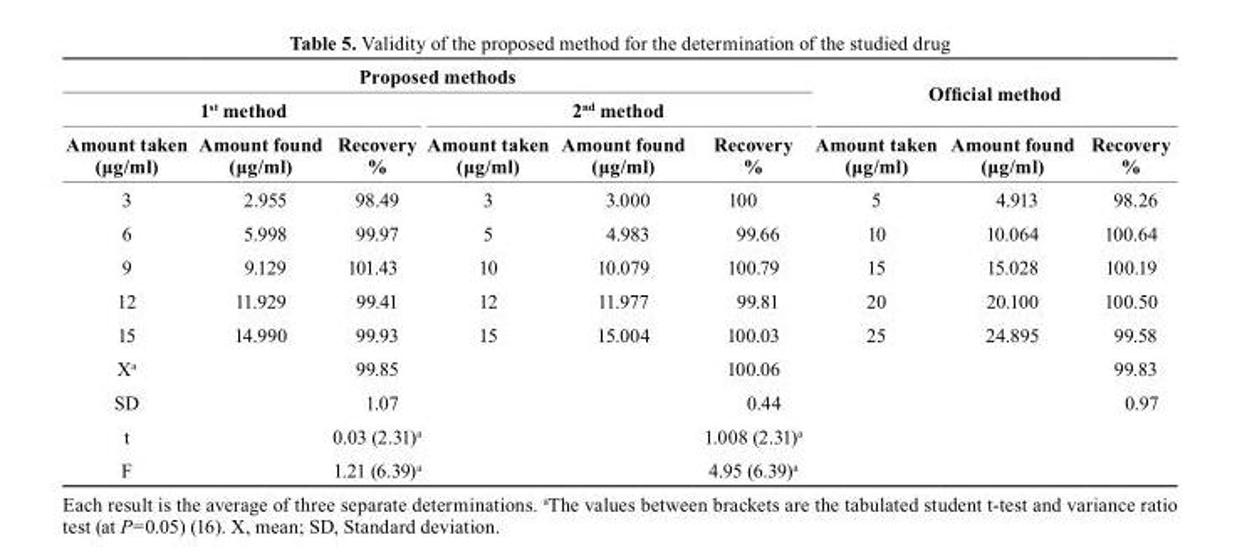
<table><thead><tr><td colspan="6">Proposed methods</td><td rowspan="2" colspan="3">Official method</td></tr><tr><td colspan="3">1st method</td><td colspan="3">2nd method</td></tr><tr><td>Amount taken (μg/ml)</td><td>Amount found (μg/ml)</td><td>recovery %</td><td>Amount taken (μg/ml)</td><td>Amount found (μg/ml)</td><td>recovery %</td><td>Amount taken (μg/ml)</td><td>Amount found (μg/ml)</td><td>recovery %</td></tr></thead><tbody><tr><td>3</td><td>2.955</td><td>98.49</td><td>3</td><td>3.000</td><td>100</td><td>5</td><td>4.913</td><td>98.26</td></tr><tr><td>6</td><td>5.998</td><td>99.97</td><td>5</td><td>4.983</td><td>99.66</td><td>10</td><td>10.064</td><td>100.64</td></tr><tr><td>9</td><td>9.129</td><td>101.43</td><td>10</td><td>10.079</td><td>100.79</td><td>15</td><td>15.028</td><td>100.19</td></tr><tr><td>12</td><td>11.929</td><td>99.41</td><td>12</td><td>11.977</td><td>99.81</td><td>20</td><td>20.100</td><td>100.50</td></tr><tr><td>15</td><td>14.990</td><td>99.93</td><td>15</td><td>15.004</td><td>100.03</td><td>25</td><td>24.895</td><td>99.58</td></tr><tr><td>X<sup>a</sup></td><td></td><td>99.85</td><td></td><td></td><td>100.06</td><td></td><td></td><td>99.83</td></tr><tr><td>SD</td><td></td><td>1.07</td><td></td><td></td><td>0.44</td><td></td><td></td><td>0.97</td></tr><tr><td>t</td><td></td><td>0.03 (2.31)<sup>a</sup></td><td></td><td></td><td>1.008 (2.31)<sup>a</sup></td><td></td><td></td><td></td></tr><tr><td>F</td><td></td><td>1.21 (6.39)<sup>a</sup></td><td></td><td></td><td>4.95 (6.39)<sup>a</sup></td><td></td><td></td><td></td></tr></tbody></table>